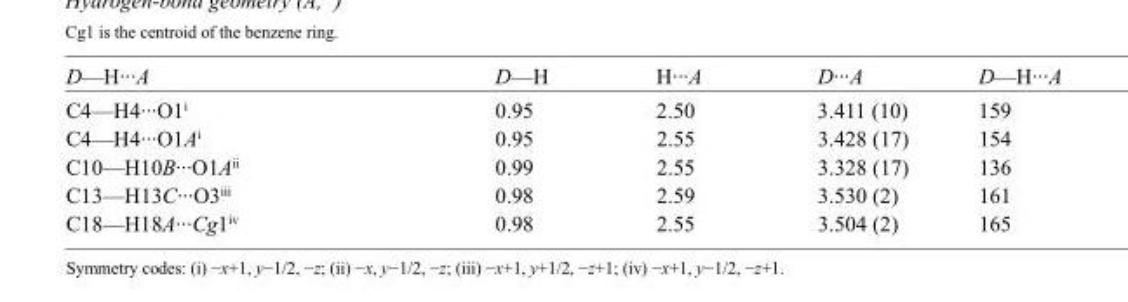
<table><tbody><tr><td>D—H···A</td><td>D—H</td><td>H···A</td><td>D···A</td><td>D—H···A</td></tr><tr><td>C4—H4···O1<sup>i</sup></td><td>0.95</td><td>2.50</td><td>3.411 (10)</td><td>159</td></tr><tr><td>C4—H4···O1A<sup>i</sup></td><td>0.95</td><td>2.55</td><td>3.428 (17)</td><td>154</td></tr><tr><td>C10—H10B···O1A<sup>ii</sup></td><td>0.99</td><td>2.55</td><td>3.328 (17)</td><td>136</td></tr><tr><td>C13—H13C···O3<sup>iii</sup></td><td>0.98</td><td>2.59</td><td>3.530 (2)</td><td>161</td></tr><tr><td>C18—H18A···Cg1<sup>iv</sup></td><td>0.98</td><td>2.55</td><td>3.504 (2)</td><td>165</td></tr></tbody></table>